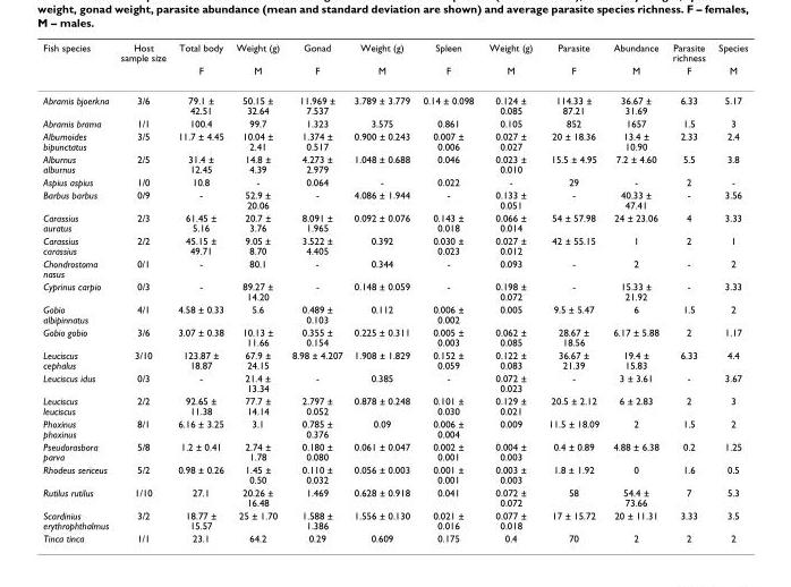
<table><thead><tr><td rowspan="2">Fish species</td><td rowspan="2">Host sample size</td><td rowspan="2">Total body F</td><td rowspan="2">Weight (g) M</td><td rowspan="2">Gonad F</td><td rowspan="2">Weight (g) M</td><td rowspan="2">Spleen F</td><td rowspan="2">Weight (g) M</td><td rowspan="2">Parasite F</td><td rowspan="2">Abundance M</td><td rowspan="2">Parasite richness F</td><td rowspan="2">Species M</td></tr><tr></tr></thead><tbody><tr><td>Abramis bjoerkna</td><td>3/6</td><td>79.1 ± 42.51</td><td>50.15 ± 32.64</td><td>11.969 ± 7.537</td><td>3.789 ± 3.779</td><td>0.14 ± 0.098</td><td>0.124 ± 0.085</td><td>114.33 ± 87.21</td><td>36.67 ± 31.69</td><td>6.33</td><td>5.17</td></tr><tr><td>Abramis brama</td><td>1/1</td><td>100.4</td><td>99.7</td><td>1.323</td><td>3.575</td><td>0.861</td><td>0.105</td><td>852</td><td>1657</td><td>1.5</td><td>3</td></tr><tr><td>Alburnoides bipunctatus</td><td>3/5</td><td>11.7 ± 4.45</td><td>10.04 ± 2.41</td><td>1.374 ± 0.517</td><td>0.900 ± 0.243</td><td>0.007 ± 0.006</td><td>0.027 ± 0.027</td><td>20 ± 18.36</td><td>13.4 ± 10.90</td><td>2.33</td><td>2.4</td></tr><tr><td>Alburnus alburnus</td><td>2/5</td><td>31.4 ± 12.45</td><td>14.8 ± 4.39</td><td>4.273 ± 2.979</td><td>1.048 ± 0.688</td><td>0.046</td><td>0.023 ± 0.010</td><td>15.5 ± 4.95</td><td>7.2 ± 4.60</td><td>5.5</td><td>3.8</td></tr><tr><td>Aspius aspius</td><td>1/0</td><td>10.8</td><td>-</td><td>0.064</td><td>-</td><td>0.022</td><td>-</td><td>29</td><td>-</td><td>2</td><td>-</td></tr><tr><td>Barbus barbus</td><td>0/9</td><td>-</td><td>52.9 ± 20.06</td><td>-</td><td>4.086 ± 1.944</td><td>-</td><td>0.133 ± 0.051</td><td>-</td><td>40.33 ± 47.41</td><td>-</td><td>3.56</td></tr><tr><td>Carassius auratus</td><td>2/3</td><td>61.45 ± 5.16</td><td>20.7 ± 3.76</td><td>8.091 ± 1.965</td><td>0.092 ± 0.076</td><td>0.143 ± 0.018</td><td>0.066 ± 0.014</td><td>54 ± 57.98</td><td>24 ± 23.06</td><td>4</td><td>3.33</td></tr><tr><td>Carassius carassius</td><td>2/2</td><td>45.15 ± 49.71</td><td>9.05 ± 8.70</td><td>3.522 ± 4.405</td><td>0.392</td><td>0.030 ± 0.023</td><td>0.027 ± 0.012</td><td>42 ± 55.15</td><td>1</td><td>2</td><td>1</td></tr><tr><td>Chondrostoma nasus</td><td>0/1</td><td>-</td><td>80.1</td><td>-</td><td>0.344</td><td>-</td><td>0.093</td><td>-</td><td>2</td><td>-</td><td>2</td></tr><tr><td>Cyprinus carpio</td><td>0/3</td><td>-</td><td>89.27 ± 14.20</td><td>-</td><td>0.148 ± 0.059</td><td>-</td><td>0.198 ± 0.072</td><td>-</td><td>15.33 ± 21.92</td><td>-</td><td>3.33</td></tr><tr><td>Gobio albipinnatus</td><td>4/1</td><td>4.58 ± 0.33</td><td>5.6</td><td>0.489 ± 0.103</td><td>0.112</td><td>0.006 ± 0.002</td><td>0.005</td><td>9.5 ± 5.47</td><td>6</td><td>1.5</td><td>2</td></tr><tr><td>Gobio gobio</td><td>3/6</td><td>3.07 ± 0.38</td><td>10.13 ± 11.66</td><td>0.355 ± 0.154</td><td>0.225 ± 0.311</td><td>0.005 ± 0.003</td><td>0.062 ± 0.085</td><td>28.67 ± 18.56</td><td>6.17 ± 5.88</td><td>2</td><td>1.17</td></tr><tr><td>Leuciscus cephalus</td><td>3/10</td><td>123.87 ± 18.87</td><td>67.9 ± 24.15</td><td>8.98 ± 4.207</td><td>1.908 ± 1.829</td><td>0.152 ± 0.059</td><td>0.122 ± 0.083</td><td>36.67 ± 21.39</td><td>19.4 ± 15.83</td><td>6.33</td><td>4.4</td></tr><tr><td>Leuciscus idus</td><td>0/3</td><td>-</td><td>21.4 ± 13.34</td><td>-</td><td>0.385</td><td>-</td><td>0.072 ± 0.023</td><td>-</td><td>3 ± 3.61</td><td>-</td><td>3.67</td></tr><tr><td>Leuciscus leuciscus</td><td>2/2</td><td>92.65 ± 11.38</td><td>77.7 ± 14.14</td><td>2.797 ± 0.052</td><td>0.878 ± 0.248</td><td>0.101 ± 0.030</td><td>0.129 ± 0.021</td><td>20.5 ± 2.12</td><td>6 ± 2.83</td><td>2</td><td>3</td></tr><tr><td>Phoxinus phoxinus</td><td>8/1</td><td>6.16 ± 3.25</td><td>3.1</td><td>0.785 ± 0.376</td><td>0.09</td><td>0.006 ± 0.004</td><td>0.009</td><td>11.5 ± 18.09</td><td>2</td><td>1.5</td><td>2</td></tr><tr><td>Pseudorasbora parva</td><td>5/8</td><td>1.2 ± 0.41</td><td>2.74 ± 1.78</td><td>0.180 ± 0.080</td><td>0.061 ± 0.047</td><td>0.002 ± 0.001</td><td>0.004 ± 0.003</td><td>0.4 ± 0.89</td><td>4.88 ± 6.38</td><td>0.2</td><td>1.25</td></tr><tr><td>Rhodeus sericeus</td><td>5/2</td><td>0.98 ± 0.26</td><td>1.45 ± 0.50</td><td>0.110 ± 0.032</td><td>0.056 ± 0.003</td><td>0.001 ± 0.001</td><td>0.003 ± 0.003</td><td>1.8 ± 1.92</td><td>0</td><td>1.6</td><td>0.5</td></tr><tr><td>Rutilus rutilus</td><td>1/10</td><td>27.1</td><td>20.26 ± 16.48</td><td>1.469</td><td>0.628 ± 0.918</td><td>0.041</td><td>0.072 ± 0.072</td><td>58</td><td>54.4 ± 73.66</td><td>7</td><td>5.3</td></tr><tr><td>Scardinius erythrophthalmus</td><td>3/2</td><td>18.77 ± 15.57</td><td>25 ± 1.70</td><td>1.588 ± 1.386</td><td>1.556 ± 0.130</td><td>0.021 ± 0.016</td><td>0.077 ± 0.018</td><td>17 ± 15.72</td><td>20 ± 11.31</td><td>3.33</td><td>3.5</td></tr><tr><td>Tinca tinca</td><td>1/1</td><td>23.1</td><td>64.2</td><td>0.29</td><td>0.609</td><td>0.175</td><td>0.4</td><td>70</td><td>2</td><td>2</td><td>2</td></tr></tbody></table>